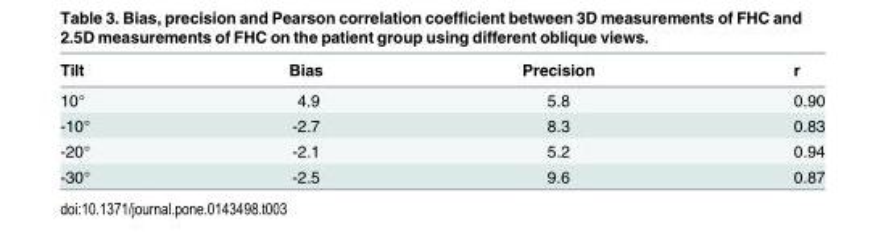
<table><thead><tr><td>Tilt</td><td>Bias</td><td>Precision</td><td>r</td></tr></thead><tbody><tr><td>10°</td><td>4.9</td><td>5.8</td><td>0.90</td></tr><tr><td>-10°</td><td>-2.7</td><td>8.3</td><td>0.83</td></tr><tr><td>-20°</td><td>-2.1</td><td>5.2</td><td>0.94</td></tr><tr><td>-30°</td><td>-2.5</td><td>9.6</td><td>0.87</td></tr></tbody></table>